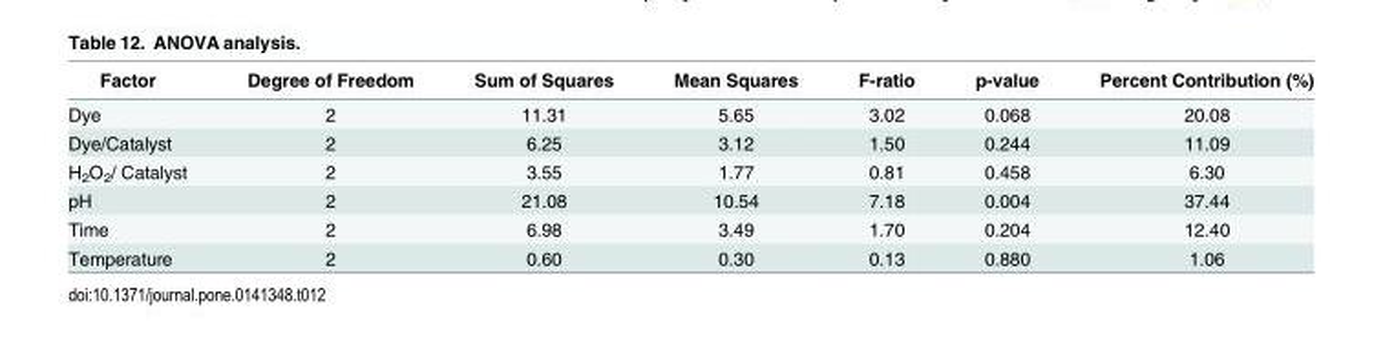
<table><thead><tr><td>Factor</td><td>Degree of Freedom</td><td>Sum of Squares</td><td>Mean Squares</td><td>F-ratio</td><td>p-value</td><td>Percent Contribution (%)</td></tr></thead><tbody><tr><td>Dye</td><td>2</td><td>11.31</td><td>5.65</td><td>3.02</td><td>0.068</td><td>20.08</td></tr><tr><td>Dye/Catalyst</td><td>2</td><td>6.25</td><td>3.12</td><td>1.50</td><td>0.244</td><td>11.09</td></tr><tr><td>H<sub>2</sub>O<sub>2</sub>/ Catalyst</td><td>2</td><td>3.55</td><td>1.77</td><td>0.81</td><td>0.458</td><td>6.30</td></tr><tr><td>pH</td><td>2</td><td>21.08</td><td>10.54</td><td>7.18</td><td>0.004</td><td>37.44</td></tr><tr><td>Time</td><td>2</td><td>6.98</td><td>3.49</td><td>1.70</td><td>0.204</td><td>12.40</td></tr><tr><td>Temperature</td><td>2</td><td>0.60</td><td>0.30</td><td>0.13</td><td>0.880</td><td>1.06</td></tr></tbody></table>